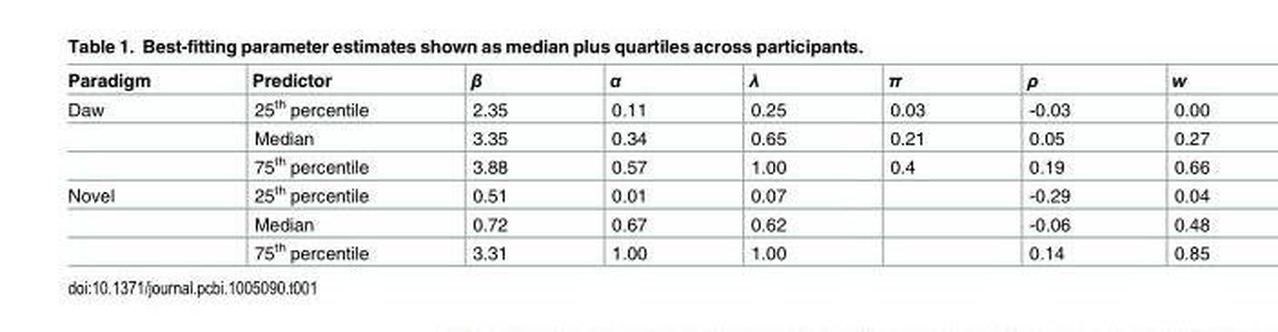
<table><thead><tr><td>Paradigm</td><td>Predictor</td><td>β</td><td>α</td><td>λ</td><td>π</td><td>ρ</td><td>w</td></tr></thead><tbody><tr><td rowspan="3">Daw</td><td>25<sup>th</sup> percentile</td><td>2.35</td><td>0.11</td><td>0.25</td><td>0.03</td><td>-0.03</td><td>0.00</td></tr><tr><td>Median</td><td>3.35</td><td>0.34</td><td>0.65</td><td>0.21</td><td>0.05</td><td>0.27</td></tr><tr><td>75<sup>th</sup> percentile</td><td>3.88</td><td>0.57</td><td>1.00</td><td>0.4</td><td>0.19</td><td>0.66</td></tr><tr><td rowspan="3">Novel</td><td>25<sup>th</sup> percentile</td><td>0.51</td><td>0.01</td><td>0.07</td><td></td><td>-0.29</td><td>0.04</td></tr><tr><td>Median</td><td>0.72</td><td>0.67</td><td>0.62</td><td></td><td>-0.06</td><td>0.48</td></tr><tr><td>75<sup>th</sup> percentile</td><td>3.31</td><td>1.00</td><td>1.00</td><td></td><td>0.14</td><td>0.85</td></tr></tbody></table>